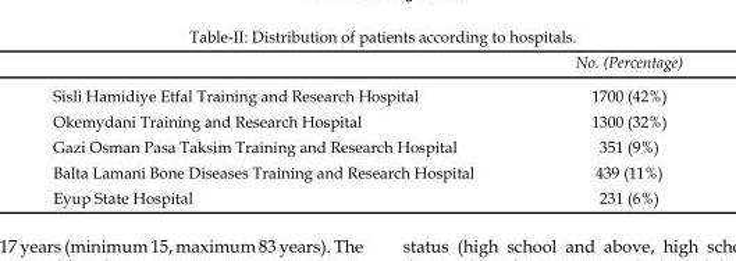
<table><thead><tr><td></td><td>No. (Percentage)</td></tr></thead><tbody><tr><td>Sisli Hamidiye Etfal Training and Research Hospital</td><td>1700 (42%)</td></tr><tr><td>Okemydani Training and Research Hospital</td><td>1300 (32%)</td></tr><tr><td>Gazi Osman Pasa Taksim Training and Research Hospital</td><td>351 (9%)</td></tr><tr><td>Balta Lamani Bone Diseases Training and Research Hospital</td><td>439 (11%)</td></tr><tr><td>Eyup State Hospital</td><td>231 (6%)</td></tr></tbody></table>